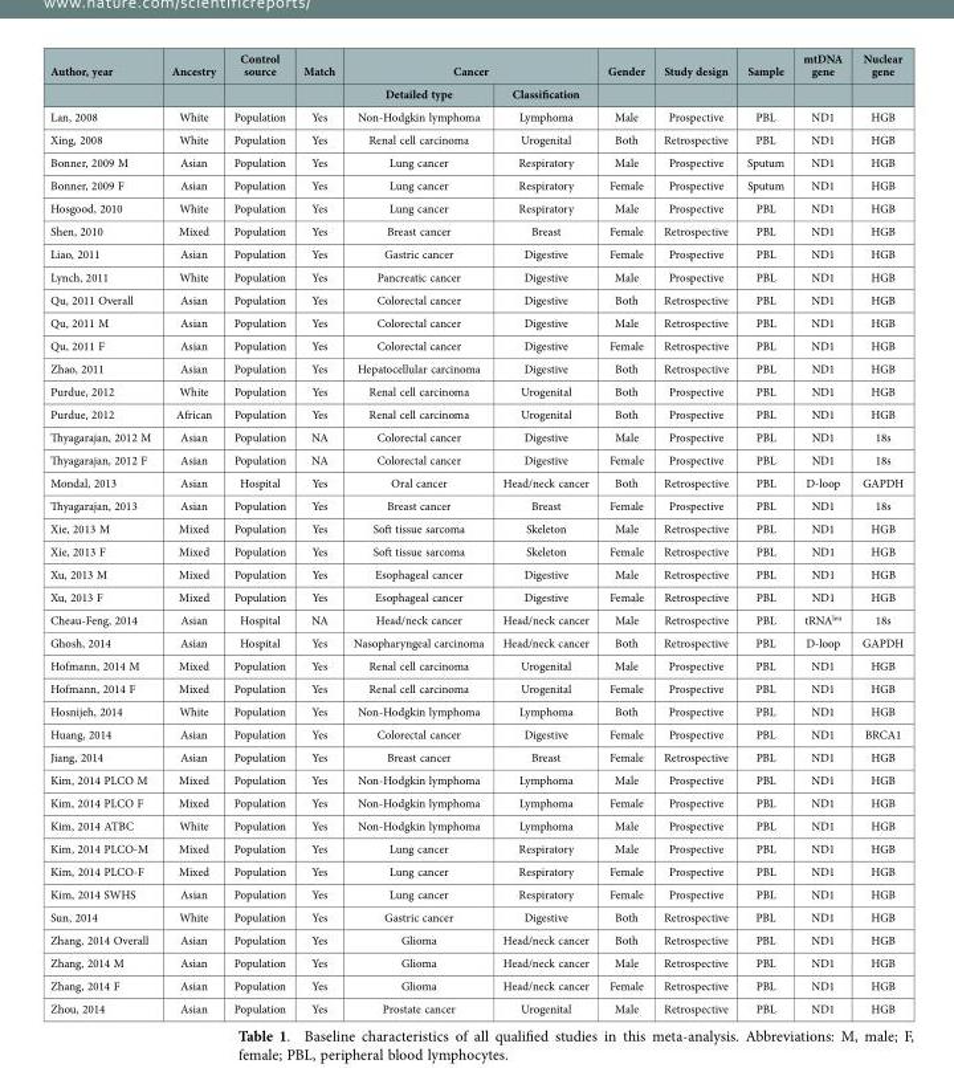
<table><thead><tr><td rowspan="2">Author, year</td><td rowspan="2">Ancestry</td><td rowspan="2">Control source</td><td rowspan="2">Match</td><td colspan="2">Cancer</td><td rowspan="2">Gender</td><td rowspan="2">Study design</td><td rowspan="2">Sample</td><td rowspan="2">mtDNA gene</td><td rowspan="2">Nuclear gene</td></tr><tr><td>Detailed type</td><td>Classification</td></tr></thead><tbody><tr><td>Lan, 2008</td><td>White</td><td>Population</td><td>Yes</td><td>Non-Hodgkin lymphoma</td><td>Lymphoma</td><td>Male</td><td>Prospective</td><td>PBL</td><td>ND1</td><td>HGB</td></tr><tr><td>Xing, 2008</td><td>White</td><td>Population</td><td>Yes</td><td>Renal cell carcinoma</td><td>Urogenital</td><td>Both</td><td>Retrospective</td><td>PBL</td><td>ND1</td><td>HGB</td></tr><tr><td>Bonner, 2009 M</td><td>Asian</td><td>Population</td><td>Yes</td><td>Lung cancer</td><td>Respiratory</td><td>Male</td><td>Prospective</td><td>Sputum</td><td>ND1</td><td>HGB</td></tr><tr><td>Bonner, 2009 F</td><td>Asian</td><td>Population</td><td>Yes</td><td>Lung cancer</td><td>Respiratory</td><td>Female</td><td>Prospective</td><td>Sputum</td><td>ND1</td><td>HGB</td></tr><tr><td>Hosgood, 2010</td><td>White</td><td>Population</td><td>Yes</td><td>Lung cancer</td><td>Respiratory</td><td>Male</td><td>Prospective</td><td>PBL</td><td>ND1</td><td>HGB</td></tr><tr><td>Shen, 2010</td><td>Mixed</td><td>Population</td><td>Yes</td><td>Breast cancer</td><td>Breast</td><td>Female</td><td>Retrospective</td><td>PBL</td><td>ND1</td><td>HGB</td></tr><tr><td>Liao, 2011</td><td>Asian</td><td>Population</td><td>Yes</td><td>Gastric cancer</td><td>Digestive</td><td>Female</td><td>Prospective</td><td>PBL</td><td>ND1</td><td>HGB</td></tr><tr><td>Lynch, 2011</td><td>White</td><td>Population</td><td>Yes</td><td>Pancreatic cancer</td><td>Digestive</td><td>Male</td><td>Prospective</td><td>PBL</td><td>ND1</td><td>HGB</td></tr><tr><td>Qu, 2011 Overall</td><td>Asian</td><td>Population</td><td>Yes</td><td>Colorectal cancer</td><td>Digestive</td><td>Both</td><td>Retrospective</td><td>PBL</td><td>ND1</td><td>HGB</td></tr><tr><td>Qu, 2011 M</td><td>Asian</td><td>Population</td><td>Yes</td><td>Colorectal cancer</td><td>Digestive</td><td>Male</td><td>Retrospective</td><td>PBL</td><td>ND1</td><td>HGB</td></tr><tr><td>Qu, 2011 F</td><td>Asian</td><td>Population</td><td>Yes</td><td>Colorectal cancer</td><td>Digestive</td><td>Female</td><td>Retrospective</td><td>PBL</td><td>ND1</td><td>HGB</td></tr><tr><td>Zhao, 2011</td><td>Asian</td><td>Population</td><td>Yes</td><td>Hepatocellular carcinoma</td><td>Digestive</td><td>Both</td><td>Retrospective</td><td>PBL</td><td>ND1</td><td>HGB</td></tr><tr><td>Purdue, 2012</td><td>White</td><td>Population</td><td>Yes</td><td>Renal cell carcinoma</td><td>Urogenital</td><td>Both</td><td>Prospective</td><td>PBL</td><td>ND1</td><td>HGB</td></tr><tr><td>Purdue, 2012</td><td>African</td><td>Population</td><td>Yes</td><td>Renal cell carcinoma</td><td>Urogenital</td><td>Both</td><td>Prospective</td><td>PBL</td><td>ND1</td><td>HGB</td></tr><tr><td>Thyagarajan, 2012 M</td><td>Asian</td><td>Population</td><td>NA</td><td>Colorectal cancer</td><td>Digestive</td><td>Male</td><td>Prospective</td><td>PBL</td><td>ND1</td><td>18s</td></tr><tr><td>Thyagarajan, 2012 F</td><td>Asian</td><td>Population</td><td>NA</td><td>Colorectal cancer</td><td>Digestive</td><td>Female</td><td>Prospective</td><td>PBL</td><td>ND1</td><td>18s</td></tr><tr><td>Mondal, 2013</td><td>Asian</td><td>Hospital</td><td>Yes</td><td>Oral cancer</td><td>Head/neck cancer</td><td>Both</td><td>Retrospective</td><td>PBL</td><td>D-loop</td><td>GAPDH</td></tr><tr><td>Thyagarajan, 2013</td><td>Asian</td><td>Population</td><td>Yes</td><td>Breast cancer</td><td>Breast</td><td>Female</td><td>Prospective</td><td>PBL</td><td>ND1</td><td>18s</td></tr><tr><td>Xie, 2013 M</td><td>Mixed</td><td>Population</td><td>Yes</td><td>Soft tissue sarcoma</td><td>Skeleton</td><td>Male</td><td>Retrospective</td><td>PBL</td><td>ND1</td><td>HGB</td></tr><tr><td>Xie, 2013 F</td><td>Mixed</td><td>Population</td><td>Yes</td><td>Soft tissue sarcoma</td><td>Skeleton</td><td>Female</td><td>Retrospective</td><td>PBL</td><td>ND1</td><td>HGB</td></tr><tr><td>Xu, 2013 M</td><td>Mixed</td><td>Population</td><td>Yes</td><td>Esophageal cancer</td><td>Digestive</td><td>Male</td><td>Retrospective</td><td>PBL</td><td>ND1</td><td>HGB</td></tr><tr><td>Xu, 2013 F</td><td>Mixed</td><td>Population</td><td>Yes</td><td>Esophageal cancer</td><td>Digestive</td><td>Female</td><td>Retrospective</td><td>PBL</td><td>ND1</td><td>HGB</td></tr><tr><td>Cheau-Feng, 2014</td><td>Asian</td><td>Hospital</td><td>NA</td><td>Head/neck cancer</td><td>Head/neck cancer</td><td>Male</td><td>Retrospective</td><td>PBL</td><td>tRNA<sup>leu</sup></td><td>18s</td></tr><tr><td>Ghosh, 2014</td><td>Asian</td><td>Hospital</td><td>Yes</td><td>Nasopharyngeal carcinoma</td><td>Head/neck cancer</td><td>Both</td><td>Retrospective</td><td>PBL</td><td>D-loop</td><td>GAPDH</td></tr><tr><td>Hofmann, 2014 M</td><td>Mixed</td><td>Population</td><td>Yes</td><td>Renal cell carcinoma</td><td>Urogenital</td><td>Male</td><td>Prospective</td><td>PBL</td><td>ND1</td><td>HGB</td></tr><tr><td>Hofmann, 2014 F</td><td>Mixed</td><td>Population</td><td>Yes</td><td>Renal cell carcinoma</td><td>Urogenital</td><td>Female</td><td>Prospective</td><td>PBL</td><td>ND1</td><td>HGB</td></tr><tr><td>Hosnijeh, 2014</td><td>White</td><td>Population</td><td>Yes</td><td>Non-Hodgkin lymphoma</td><td>Lymphoma</td><td>Both</td><td>Prospective</td><td>PBL</td><td>ND1</td><td>HGB</td></tr><tr><td>Huang, 2014</td><td>Asian</td><td>Population</td><td>Yes</td><td>Colorectal cancer</td><td>Digestive</td><td>Female</td><td>Prospective</td><td>PBL</td><td>ND1</td><td>BRCA1</td></tr><tr><td>Jiang, 2014</td><td>Asian</td><td>Population</td><td>Yes</td><td>Breast cancer</td><td>Breast</td><td>Female</td><td>Retrospective</td><td>PBL</td><td>ND1</td><td>HGB</td></tr><tr><td>Kim, 2014 PLCO M</td><td>Mixed</td><td>Population</td><td>Yes</td><td>Non-Hodgkin lymphoma</td><td>Lymphoma</td><td>Male</td><td>Prospective</td><td>PBL</td><td>ND1</td><td>HGB</td></tr><tr><td>Kim, 2014 PLCO F</td><td>Mixed</td><td>Population</td><td>Yes</td><td>Non-Hodgkin lymphoma</td><td>Lymphoma</td><td>Female</td><td>Prospective</td><td>PBL</td><td>ND1</td><td>HGB</td></tr><tr><td>Kim, 2014 ATBC</td><td>White</td><td>Population</td><td>Yes</td><td>Non-Hodgkin lymphoma</td><td>Lymphoma</td><td>Male</td><td>Prospective</td><td>PBL</td><td>ND1</td><td>HGB</td></tr><tr><td>Kim, 2014 PLCO-M</td><td>Mixed</td><td>Population</td><td>Yes</td><td>Lung cancer</td><td>Respiratory</td><td>Male</td><td>Prospective</td><td>PBL</td><td>ND1</td><td>HGB</td></tr><tr><td>Kim, 2014 PLCO-F</td><td>Mixed</td><td>Population</td><td>Yes</td><td>Lung cancer</td><td>Respiratory</td><td>Female</td><td>Prospective</td><td>PBL</td><td>ND1</td><td>HGB</td></tr><tr><td>Kim, 2014 SWHS</td><td>Asian</td><td>Population</td><td>Yes</td><td>Lung cancer</td><td>Respiratory</td><td>Female</td><td>Prospective</td><td>PBL</td><td>ND1</td><td>HGB</td></tr><tr><td>Sun, 2014</td><td>White</td><td>Population</td><td>Yes</td><td>Gastric cancer</td><td>Digestive</td><td>Both</td><td>Retrospective</td><td>PBL</td><td>ND1</td><td>HGB</td></tr><tr><td>Zhang, 2014 Overall</td><td>Asian</td><td>Population</td><td>Yes</td><td>Glioma</td><td>Head/neck cancer</td><td>Both</td><td>Retrospective</td><td>PBL</td><td>ND1</td><td>HGB</td></tr><tr><td>Zhang, 2014 M</td><td>Asian</td><td>Population</td><td>Yes</td><td>Glioma</td><td>Head/neck cancer</td><td>Male</td><td>Retrospective</td><td>PBL</td><td>ND1</td><td>HGB</td></tr><tr><td>Zhang, 2014 F</td><td>Asian</td><td>Population</td><td>Yes</td><td>Glioma</td><td>Head/neck cancer</td><td>Female</td><td>Retrospective</td><td>PBL</td><td>ND1</td><td>HGB</td></tr><tr><td>Zhou, 2014</td><td>Asian</td><td>Population</td><td>Yes</td><td>Prostate cancer</td><td>Urogenital</td><td>Male</td><td>Retrospective</td><td>PBL</td><td>ND1</td><td>HGB</td></tr></tbody></table>